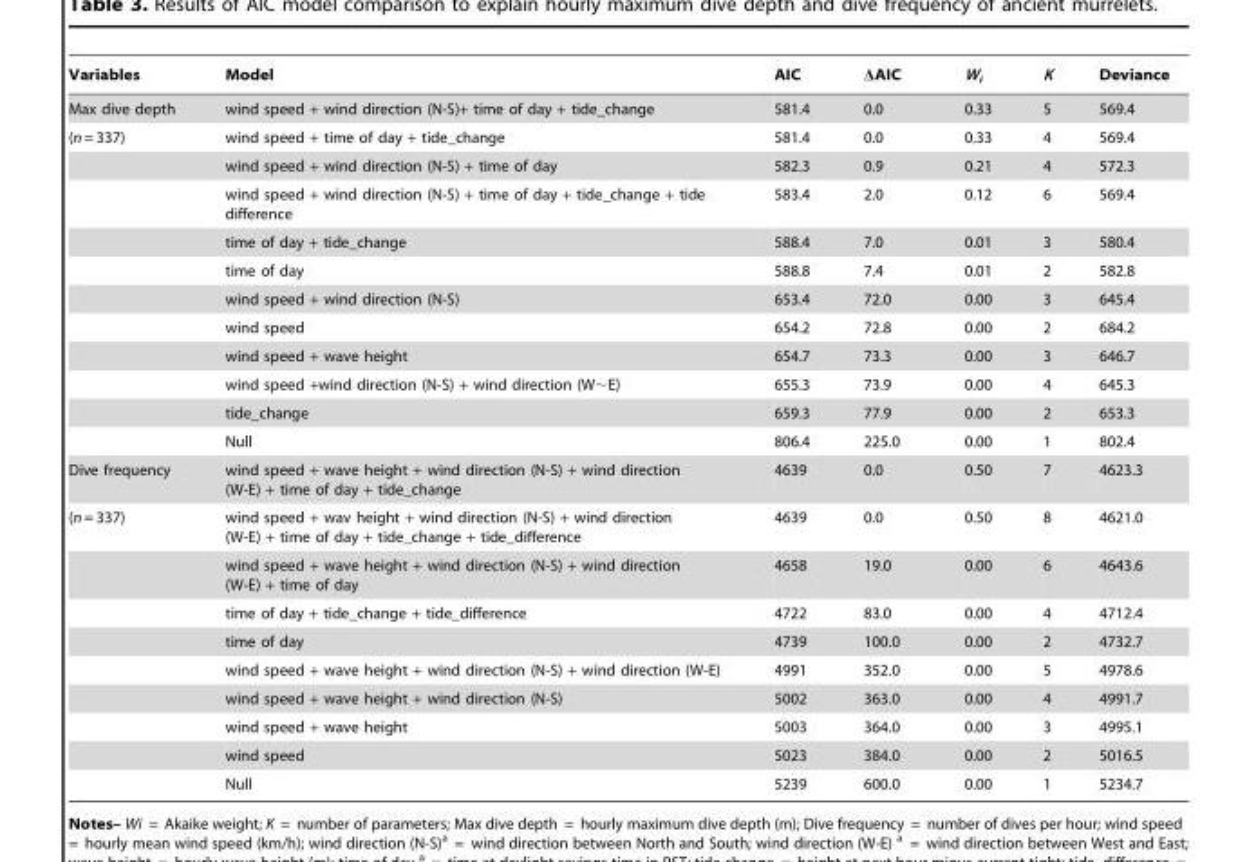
<table><thead><tr><td>Variables</td><td>Model</td><td>AIC</td><td>ΔAIC</td><td>W<sub>i</sub></td><td>K</td><td>Deviance</td></tr></thead><tbody><tr><td>Max dive depth</td><td>wind speed + wind direction (N-S)+ time of day + tide_change</td><td>581.4</td><td>0.0</td><td>0.33</td><td>5</td><td>569.4</td></tr><tr><td rowspan="11">(n = 337)</td><td>wind speed + time of day + tide_change</td><td>581.4</td><td>0.0</td><td>0.33</td><td>4</td><td>569.4</td></tr><tr><td>wind speed + wind direction (N-S) + time of day</td><td>582.3</td><td>0.9</td><td>0.21</td><td>4</td><td>572.3</td></tr><tr><td>wind speed + wind direction (N-S) + time of day + tide_change + tide difference</td><td>583.4</td><td>2.0</td><td>0.12</td><td>6</td><td>569.4</td></tr><tr><td>time of day + tide_change</td><td>588.4</td><td>7.0</td><td>0.01</td><td>3</td><td>580.4</td></tr><tr><td>time of day</td><td>588.8</td><td>7.4</td><td>0.01</td><td>2</td><td>582.8</td></tr><tr><td>wind speed + wind direction (N-S)</td><td>653.4</td><td>72.0</td><td>0.00</td><td>3</td><td>645.4</td></tr><tr><td>wind speed</td><td>654.2</td><td>72.8</td><td>0.00</td><td>2</td><td>684.2</td></tr><tr><td>wind speed + wave height</td><td>654.7</td><td>73.3</td><td>0.00</td><td>3</td><td>646.7</td></tr><tr><td>wind speed +wind direction (N-S) + wind direction (W∼E)</td><td>655.3</td><td>73.9</td><td>0.00</td><td>4</td><td>645.3</td></tr><tr><td>tide_change</td><td>659.3</td><td>77.9</td><td>0.00</td><td>2</td><td>653.3</td></tr><tr><td>Null</td><td>806.4</td><td>225.0</td><td>0.00</td><td>1</td><td>802.4</td></tr><tr><td>Dive frequency</td><td>wind speed + wave height + wind direction (N-S) + wind direction (W-E) + time of day + tide_change</td><td>4639</td><td>0.0</td><td>0.50</td><td>7</td><td>4623.3</td></tr><tr><td rowspan="9">(n = 337)</td><td>wind speed + wav height + wind direction (N-S) + wind direction (W-E) + time of day + tide_change + tide_difference</td><td>4639</td><td>0.0</td><td>0.50</td><td>8</td><td>4621.0</td></tr><tr><td>wind speed + wave height + wind direction (N-S) + wind direction (W-E) + time of day</td><td>4658</td><td>19.0</td><td>0.00</td><td>6</td><td>4643.6</td></tr><tr><td>time of day + tide_change + tide_difference</td><td>4722</td><td>83.0</td><td>0.00</td><td>4</td><td>4712.4</td></tr><tr><td>time of day</td><td>4739</td><td>100.0</td><td>0.00</td><td>2</td><td>4732.7</td></tr><tr><td>wind speed + wave height + wind direction (N-S) + wind direction (W-E)</td><td>4991</td><td>352.0</td><td>0.00</td><td>5</td><td>4978.6</td></tr><tr><td>wind speed + wave height + wind direction (N-S)</td><td>5002</td><td>363.0</td><td>0.00</td><td>4</td><td>4991.7</td></tr><tr><td>wind speed + wave height</td><td>5003</td><td>364.0</td><td>0.00</td><td>3</td><td>4995.1</td></tr><tr><td>wind speed</td><td>5023</td><td>384.0</td><td>0.00</td><td>2</td><td>5016.5</td></tr><tr><td>Null</td><td>5239</td><td>600.0</td><td>0.00</td><td>1</td><td>5234.7</td></tr></tbody></table>